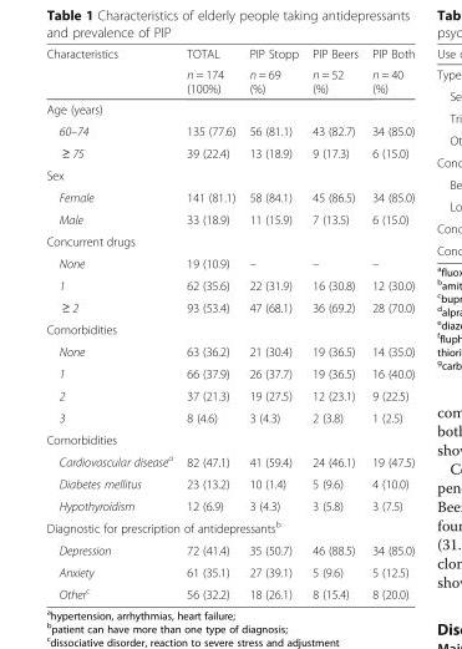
<table><thead><tr><td rowspan="2">Characteristics</td><td rowspan="2">TOTAL n = 174 (100%)</td><td rowspan="2">PIP Stopp n = 69 (%)</td><td rowspan="2">PIP Beers n = 52 (%)</td><td rowspan="2">PIP Both n = 40 (%)</td></tr><tr></tr></thead><tbody><tr><td colspan="5">Age (years)</td></tr><tr><td>60–74</td><td>135 (77.6)</td><td>56 (81.1)</td><td>43 (82.7)</td><td>34 (85.0)</td></tr><tr><td>≥ 75</td><td>39 (22.4)</td><td>13 (18.9)</td><td>9 (17.3)</td><td>6 (15.0)</td></tr><tr><td colspan="5">Sex</td></tr><tr><td>Female</td><td>141 (81.1)</td><td>58 (84.1)</td><td>45 (86.5)</td><td>34 (85.0)</td></tr><tr><td>Male</td><td>33 (18.9)</td><td>11 (15.9)</td><td>7 (13.5)</td><td>6 (15.0)</td></tr><tr><td colspan="5">Concurrent drugs</td></tr><tr><td>None</td><td>19 (10.9)</td><td>–</td><td>–</td><td>–</td></tr><tr><td>1</td><td>62 (35.6)</td><td>22 (31.9)</td><td>16 (30.8)</td><td>12 (30.0)</td></tr><tr><td>≥ 2</td><td>93 (53.4)</td><td>47 (68.1)</td><td>36 (69.2)</td><td>28 (70.0)</td></tr><tr><td colspan="5">Comorbidities</td></tr><tr><td>None</td><td>63 (36.2)</td><td>21 (30.4)</td><td>19 (36.5)</td><td>14 (35.0)</td></tr><tr><td>1</td><td>66 (37.9)</td><td>26 (37.7)</td><td>19 (36.5)</td><td>16 (40.0)</td></tr><tr><td>2</td><td>37 (21.3)</td><td>19 (27.5)</td><td>12 (23.1)</td><td>9 (22.5)</td></tr><tr><td>3</td><td>8 (4.6)</td><td>3 (4.3)</td><td>2 (3.8)</td><td>1 (2.5)</td></tr><tr><td colspan="5">Comorbidities</td></tr><tr><td>Cardiovascular disease<sup>a</sup></td><td>82 (47.1)</td><td>41 (59.4)</td><td>24 (46.1)</td><td>19 (47.5)</td></tr><tr><td>Diabetes mellitus</td><td>23 (13.2)</td><td>10 (1.4)</td><td>5 (9.6)</td><td>4 (10.0)</td></tr><tr><td>Hypothyroidism</td><td>12 (6.9)</td><td>3 (4.3)</td><td>3 (5.8)</td><td>3 (7.5)</td></tr><tr><td colspan="5">Diagnostic for prescription of antidepressants<sup>b</sup></td></tr><tr><td>Depression</td><td>72 (41.4)</td><td>35 (50.7)</td><td>46 (88.5)</td><td>34 (85.0)</td></tr><tr><td>Anxiety</td><td>61 (35.1)</td><td>27 (39.1)</td><td>5 (9.6)</td><td>5 (12.5)</td></tr><tr><td>Other<sup>c</sup></td><td>56 (32.2)</td><td>18 (26.1)</td><td>8 (15.4)</td><td>8 (20.0)</td></tr></tbody></table>